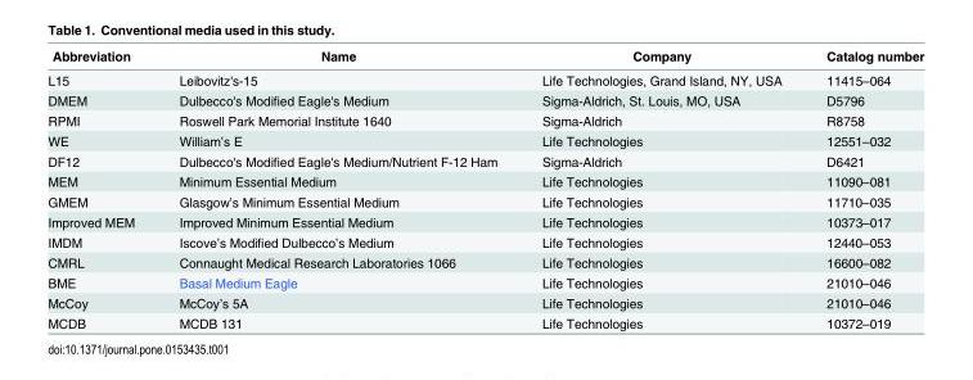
<table><thead><tr><td>Abbreviation</td><td>Name</td><td>Company</td><td>Catalog number</td></tr></thead><tbody><tr><td>L15</td><td>Leibovitz&#x27;s-15</td><td>Life Technologies, Grand Island, NY, USA</td><td>11415–064</td></tr><tr><td>DMEM</td><td>Dulbecco&#x27;s Modified Eagle&#x27;s Medium</td><td>Sigma-Aldrich, St. Louis, MO, USA</td><td>D5796</td></tr><tr><td>RPMI</td><td>Roswell Park Memorial Institute 1640</td><td>Sigma-Aldrich</td><td>R8758</td></tr><tr><td>WE</td><td>William’s E</td><td>Life Technologies</td><td>12551–032</td></tr><tr><td>DF12</td><td>Dulbecco&#x27;s Modified Eagle&#x27;s Medium/Nutrient F-12 Ham</td><td>Sigma-Aldrich</td><td>D6421</td></tr><tr><td>MEM</td><td>Minimum Essential Medium</td><td>Life Technologies</td><td>11090–081</td></tr><tr><td>GMEM</td><td>Glasgow’s Minimum Essential Medium</td><td>Life Technologies</td><td>11710–035</td></tr><tr><td>Improved MEM</td><td>Improved Minimum Essential Medium</td><td>Life Technologies</td><td>10373–017</td></tr><tr><td>IMDM</td><td>Iscove’s Modified Dulbecco’s Medium</td><td>Life Technologies</td><td>12440–053</td></tr><tr><td>CMRL</td><td>Connaught Medical Research Laboratories 1066</td><td>Life Technologies</td><td>16600–082</td></tr><tr><td>BME</td><td>Basal Medium Eagle</td><td>Life Technologies</td><td>21010–046</td></tr><tr><td>McCoy</td><td>McCoy’s 5A</td><td>Life Technologies</td><td>21010–046</td></tr><tr><td>MCDB</td><td>MCDB 131</td><td>Life Technologies</td><td>10372–019</td></tr></tbody></table>